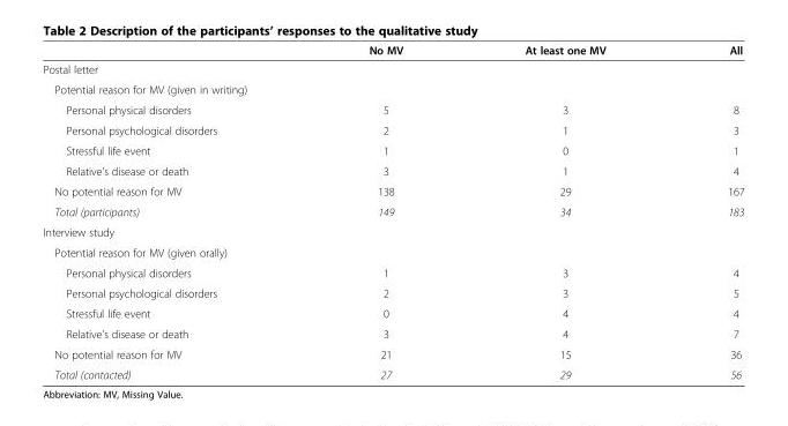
<table><thead><tr><td></td><td>No MV</td><td>At least one MV</td><td>All</td></tr></thead><tbody><tr><td colspan="4">Postal letter</td></tr><tr><td colspan="4">Potential reason for MV (given in writing)</td></tr><tr><td>Personal physical disorders</td><td>5</td><td>3</td><td>8</td></tr><tr><td>Personal psychological disorders</td><td>2</td><td>1</td><td>3</td></tr><tr><td>Stressful life event</td><td>1</td><td>0</td><td>1</td></tr><tr><td>Relative&#x27;s disease or death</td><td>3</td><td>1</td><td>4</td></tr><tr><td>No potential reason for MV</td><td>138</td><td>29</td><td>167</td></tr><tr><td>Total (participants)</td><td>149</td><td>34</td><td>183</td></tr><tr><td colspan="4">Interview study</td></tr><tr><td colspan="4">Potential reason for MV (given orally)</td></tr><tr><td>Personal physical disorders</td><td>1</td><td>3</td><td>4</td></tr><tr><td>Personal psychological disorders</td><td>2</td><td>3</td><td>5</td></tr><tr><td>Stressful life event</td><td>0</td><td>4</td><td>4</td></tr><tr><td>Relative&#x27;s disease or death</td><td>3</td><td>4</td><td>7</td></tr><tr><td>No potential reason for MV</td><td>21</td><td>15</td><td>36</td></tr><tr><td>Total (contacted)</td><td>27</td><td>29</td><td>56</td></tr></tbody></table>